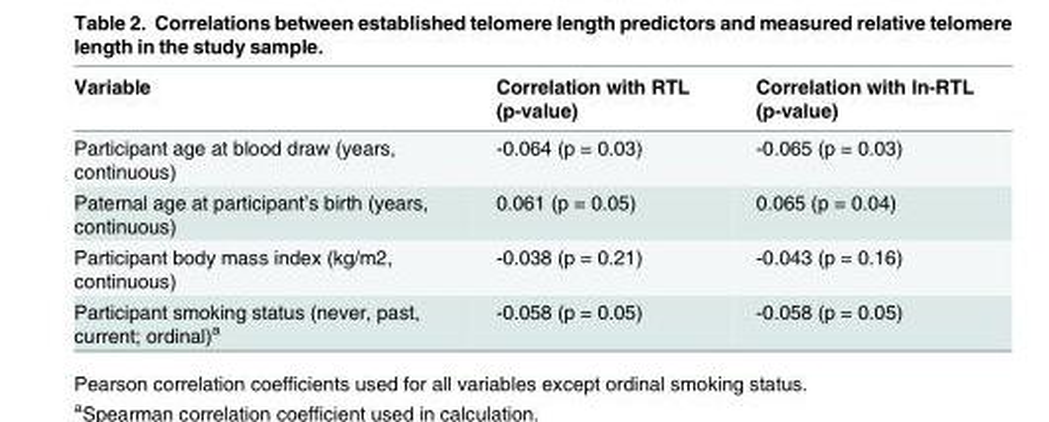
<table><thead><tr><td>Variable</td><td>Correlation with RTL (p-value)</td><td>Correlation with ln-RTL (p-value)</td></tr></thead><tbody><tr><td>Participant age at blood draw (years, continuous)</td><td>-0.064 (p = 0.03)</td><td>-0.065 (p = 0.03)</td></tr><tr><td>Paternal age at participant’s birth (years, continuous)</td><td>0.061 (p = 0.05)</td><td>0.065 (p = 0.04)</td></tr><tr><td>Participant body mass index (kg/m2, continuous)</td><td>-0.038 (p = 0.21)</td><td>-0.043 (p = 0.16)</td></tr><tr><td>Participant smoking status (never, past, current; ordinal)<sup>a</sup></td><td>-0.058 (p = 0.05)</td><td>-0.058 (p = 0.05)</td></tr></tbody></table>